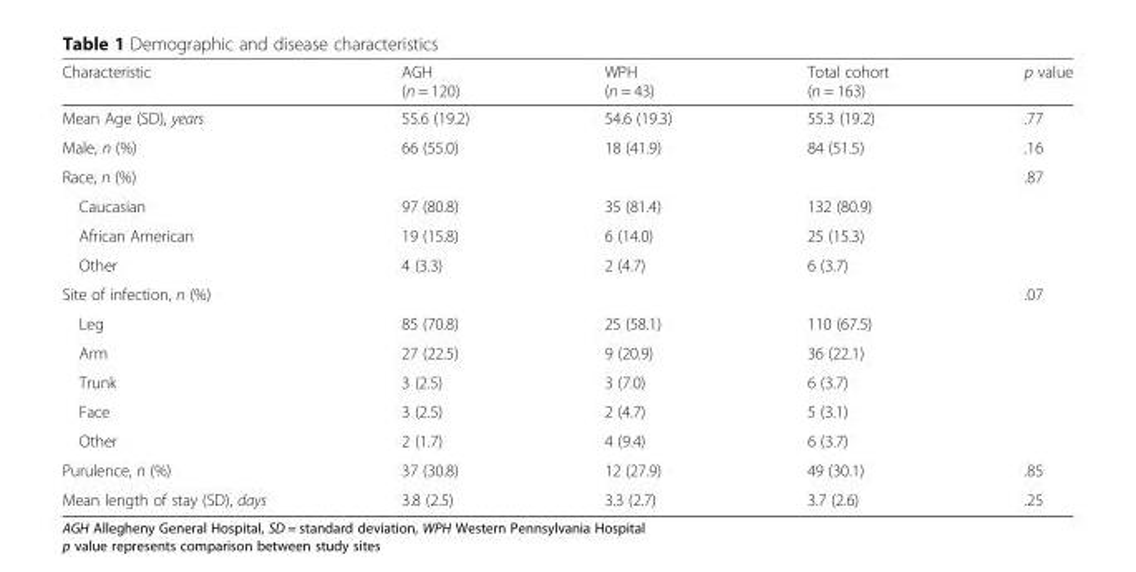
<table><thead><tr><td>Characteristic</td><td>AGH (n = 120)</td><td>WPH (n = 43)</td><td>Total cohort (n = 163)</td><td>p value</td></tr></thead><tbody><tr><td>Mean Age (SD), years</td><td>55.6 (19.2)</td><td>54.6 (19.3)</td><td>55.3 (19.2)</td><td>.77</td></tr><tr><td>Male, n (%)</td><td>66 (55.0)</td><td>18 (41.9)</td><td>84 (51.5)</td><td>.16</td></tr><tr><td>Race, n (%)</td><td></td><td></td><td></td><td>.87</td></tr><tr><td>Caucasian</td><td>97 (80.8)</td><td>35 (81.4)</td><td>132 (80.9)</td><td></td></tr><tr><td>African American</td><td>19 (15.8)</td><td>6 (14.0)</td><td>25 (15.3)</td><td></td></tr><tr><td>Other</td><td>4 (3.3)</td><td>2 (4.7)</td><td>6 (3.7)</td><td></td></tr><tr><td>Site of infection, n (%)</td><td></td><td></td><td></td><td>.07</td></tr><tr><td>Leg</td><td>85 (70.8)</td><td>25 (58.1)</td><td>110 (67.5)</td><td></td></tr><tr><td>Arm</td><td>27 (22.5)</td><td>9 (20.9)</td><td>36 (22.1)</td><td></td></tr><tr><td>Trunk</td><td>3 (2.5)</td><td>3 (7.0)</td><td>6 (3.7)</td><td></td></tr><tr><td>Face</td><td>3 (2.5)</td><td>2 (4.7)</td><td>5 (3.1)</td><td></td></tr><tr><td>Other</td><td>2 (1.7)</td><td>4 (9.4)</td><td>6 (3.7)</td><td></td></tr><tr><td>Purulence, n (%)</td><td>37 (30.8)</td><td>12 (27.9)</td><td>49 (30.1)</td><td>.85</td></tr><tr><td>Mean length of stay (SD), days</td><td>3.8 (2.5)</td><td>3.3 (2.7)</td><td>3.7 (2.6)</td><td>.25</td></tr></tbody></table>